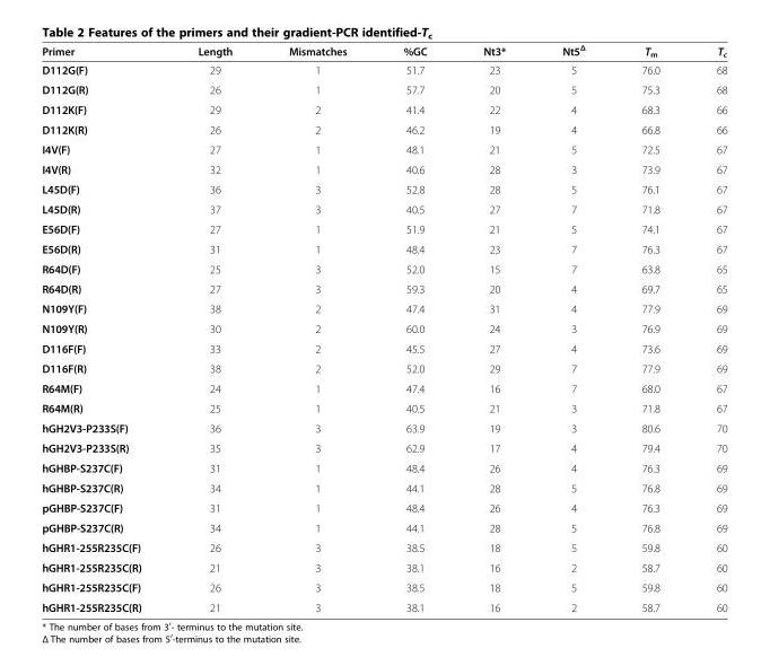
<table><thead><tr><td>Primer</td><td>Length</td><td>Mismatches</td><td>%GC</td><td>Nt3*</td><td>Nt5<sup>Δ</sup></td><td>T<sub>m</sub></td><td>T<sub>c</sub></td></tr></thead><tbody><tr><td>D112G(F)</td><td>29</td><td>1</td><td>51.7</td><td>23</td><td>5</td><td>76.0</td><td>68</td></tr><tr><td>D112G(R)</td><td>26</td><td>1</td><td>57.7</td><td>20</td><td>5</td><td>75.3</td><td>68</td></tr><tr><td>D112K(F)</td><td>29</td><td>2</td><td>41.4</td><td>22</td><td>4</td><td>68.3</td><td>66</td></tr><tr><td>D112K(R)</td><td>26</td><td>2</td><td>46.2</td><td>19</td><td>4</td><td>66.8</td><td>66</td></tr><tr><td>I4V(F)</td><td>27</td><td>1</td><td>48.1</td><td>21</td><td>5</td><td>72.5</td><td>67</td></tr><tr><td>I4V(R)</td><td>32</td><td>1</td><td>40.6</td><td>28</td><td>3</td><td>73.9</td><td>67</td></tr><tr><td>L45D(F)</td><td>36</td><td>3</td><td>52.8</td><td>28</td><td>5</td><td>76.1</td><td>67</td></tr><tr><td>L45D(R)</td><td>37</td><td>3</td><td>40.5</td><td>27</td><td>7</td><td>71.8</td><td>67</td></tr><tr><td>E56D(F)</td><td>27</td><td>1</td><td>51.9</td><td>21</td><td>5</td><td>74.1</td><td>67</td></tr><tr><td>E56D(R)</td><td>31</td><td>1</td><td>48.4</td><td>23</td><td>7</td><td>76.3</td><td>67</td></tr><tr><td>R64D(F)</td><td>25</td><td>3</td><td>52.0</td><td>15</td><td>7</td><td>63.8</td><td>65</td></tr><tr><td>R64D(R)</td><td>27</td><td>3</td><td>59.3</td><td>20</td><td>4</td><td>69.7</td><td>65</td></tr><tr><td>N109Y(F)</td><td>38</td><td>2</td><td>47.4</td><td>31</td><td>4</td><td>77.9</td><td>69</td></tr><tr><td>N109Y(R)</td><td>30</td><td>2</td><td>60.0</td><td>24</td><td>3</td><td>76.9</td><td>69</td></tr><tr><td>D116F(F)</td><td>33</td><td>2</td><td>45.5</td><td>27</td><td>4</td><td>73.6</td><td>69</td></tr><tr><td>D116F(R)</td><td>38</td><td>2</td><td>52.0</td><td>29</td><td>7</td><td>77.9</td><td>69</td></tr><tr><td>R64M(F)</td><td>24</td><td>1</td><td>47.4</td><td>16</td><td>7</td><td>68.0</td><td>67</td></tr><tr><td>R64M(R)</td><td>25</td><td>1</td><td>40.5</td><td>21</td><td>3</td><td>71.8</td><td>67</td></tr><tr><td>hGH2V3-P233S(F)</td><td>36</td><td>3</td><td>63.9</td><td>19</td><td>3</td><td>80.6</td><td>70</td></tr><tr><td>hGH2V3-P233S(R)</td><td>35</td><td>3</td><td>62.9</td><td>17</td><td>4</td><td>79.4</td><td>70</td></tr><tr><td>hGHBP-S237C(F)</td><td>31</td><td>1</td><td>48.4</td><td>26</td><td>4</td><td>76.3</td><td>69</td></tr><tr><td>hGHBP-S237C(R)</td><td>34</td><td>1</td><td>44.1</td><td>28</td><td>5</td><td>76.8</td><td>69</td></tr><tr><td>pGHBP-S237C(F)</td><td>31</td><td>1</td><td>48.4</td><td>26</td><td>4</td><td>76.3</td><td>69</td></tr><tr><td>pGHBP-S237C(R)</td><td>34</td><td>1</td><td>44.1</td><td>28</td><td>5</td><td>76.8</td><td>69</td></tr><tr><td>hGHR1-255R235C(F)</td><td>26</td><td>3</td><td>38.5</td><td>18</td><td>5</td><td>59.8</td><td>60</td></tr><tr><td>hGHR1-255R235C(R)</td><td>21</td><td>3</td><td>38.1</td><td>16</td><td>2</td><td>58.7</td><td>60</td></tr><tr><td>hGHR1-255R235C(F)</td><td>26</td><td>3</td><td>38.5</td><td>18</td><td>5</td><td>59.8</td><td>60</td></tr><tr><td>hGHR1-255R235C(R)</td><td>21</td><td>3</td><td>38.1</td><td>16</td><td>2</td><td>58.7</td><td>60</td></tr></tbody></table>